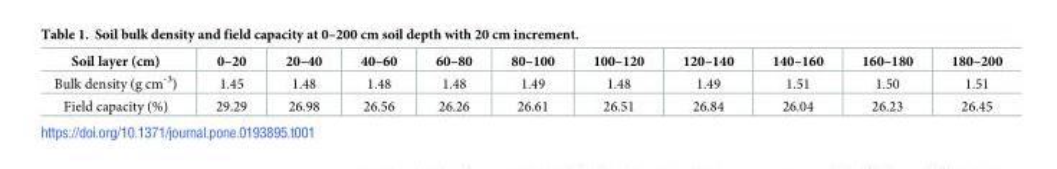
<table><thead><tr><td>Soil layer (cm)</td><td>0–20</td><td>20–40</td><td>40–60</td><td>60–80</td><td>80–100</td><td>100–120</td><td>120–140</td><td>140–160</td><td>160–180</td><td>180–200</td></tr></thead><tbody><tr><td>Bulk density (g cm<sup>-3</sup>)</td><td>1.45</td><td>1.48</td><td>1.48</td><td>1.48</td><td>1.49</td><td>1.48</td><td>1.49</td><td>1.51</td><td>1.50</td><td>1.51</td></tr><tr><td>Field capacity (%)</td><td>29.29</td><td>26.98</td><td>26.56</td><td>26.26</td><td>26.61</td><td>26.51</td><td>26.84</td><td>26.04</td><td>26.23</td><td>26.45</td></tr></tbody></table>